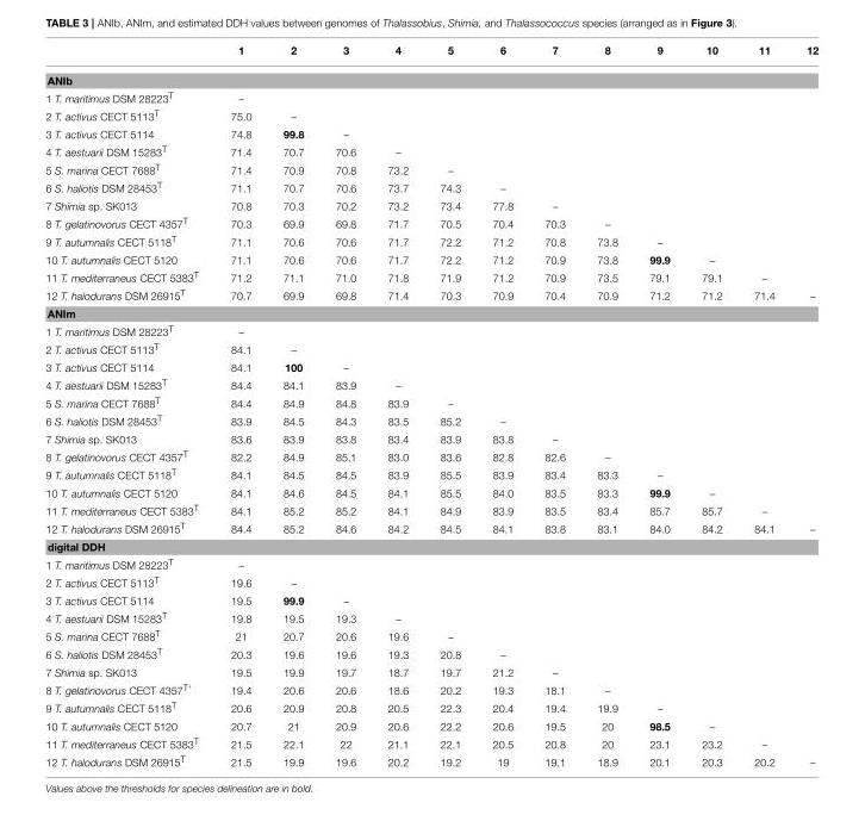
<table><thead><tr><td></td><td>1</td><td>2</td><td>3</td><td>4</td><td>5</td><td>6</td><td>7</td><td>8</td><td>9</td><td>10</td><td>11</td><td>12</td></tr></thead><tbody><tr><td colspan="13">ANIb</td></tr><tr><td>1 T. maritimus DSM 28223<sup>T</sup></td><td>–</td><td></td><td></td><td></td><td></td><td></td><td></td><td></td><td></td><td></td><td></td><td></td></tr><tr><td>2 T. activus CECT 5113<sup>T</sup></td><td>75.0</td><td>–</td><td></td><td></td><td></td><td></td><td></td><td></td><td></td><td></td><td></td><td></td></tr><tr><td>3 T. activus CECT 5114</td><td>74.8</td><td>99.8</td><td>–</td><td></td><td></td><td></td><td></td><td></td><td></td><td></td><td></td><td></td></tr><tr><td>4 T. aestuarii DSM 15283<sup>T</sup></td><td>71.4</td><td>70.7</td><td>70.6</td><td>–</td><td></td><td></td><td></td><td></td><td></td><td></td><td></td><td></td></tr><tr><td>5 S. marina CECT 7688<sup>T</sup></td><td>71.4</td><td>70.9</td><td>70.8</td><td>73.2</td><td>–</td><td></td><td></td><td></td><td></td><td></td><td></td><td></td></tr><tr><td>6 S. haliotis DSM 28453<sup>T</sup></td><td>71.1</td><td>70.7</td><td>70.6</td><td>73.7</td><td>74.3</td><td>–</td><td></td><td></td><td></td><td></td><td></td><td></td></tr><tr><td>7 Shimia sp. SK013</td><td>70.8</td><td>70.3</td><td>70.2</td><td>73.2</td><td>73.4</td><td>77.8</td><td>–</td><td></td><td></td><td></td><td></td><td></td></tr><tr><td>8 T. gelatinovorus CECT 4357<sup>T</sup></td><td>70.3</td><td>69.9</td><td>69.8</td><td>71.7</td><td>70.5</td><td>70.4</td><td>70.3</td><td>–</td><td></td><td></td><td></td><td></td></tr><tr><td>9 T. autumnalis CECT 5118<sup>T</sup></td><td>71.1</td><td>70.6</td><td>70.6</td><td>71.7</td><td>72.2</td><td>71.2</td><td>70.8</td><td>73.8</td><td>–</td><td></td><td></td><td></td></tr><tr><td>10 T. autumnalis CECT 5120</td><td>71.1</td><td>70.6</td><td>70.6</td><td>71.7</td><td>72.2</td><td>71.2</td><td>70.9</td><td>73.8</td><td>99.9</td><td>–</td><td></td><td></td></tr><tr><td>11 T. mediterraneus CECT 5383<sup>T</sup></td><td>71.2</td><td>71.1</td><td>71.0</td><td>71.8</td><td>71.9</td><td>71.2</td><td>70.9</td><td>73.5</td><td>79.1</td><td>79.1</td><td>–</td><td></td></tr><tr><td>12 T. halodurans DSM 26915<sup>T</sup></td><td>70.7</td><td>69.9</td><td>69.8</td><td>71.4</td><td>70.3</td><td>70.9</td><td>70.4</td><td>70.9</td><td>71.2</td><td>71.2</td><td>71.4</td><td>–</td></tr><tr><td colspan="13">ANIm</td></tr><tr><td>1 T. maritimus DSM 28223<sup>T</sup></td><td>–</td><td></td><td></td><td></td><td></td><td></td><td></td><td></td><td></td><td></td><td></td><td></td></tr><tr><td>2 T. activus CECT 5113<sup>T</sup></td><td>84.1</td><td>–</td><td></td><td></td><td></td><td></td><td></td><td></td><td></td><td></td><td></td><td></td></tr><tr><td>3 T. activus CECT 5114</td><td>84.1</td><td>100</td><td>–</td><td></td><td></td><td></td><td></td><td></td><td></td><td></td><td></td><td></td></tr><tr><td>4 T. aestuarii DSM 15283<sup>T</sup></td><td>84.4</td><td>84.1</td><td>83.9</td><td>–</td><td></td><td></td><td></td><td></td><td></td><td></td><td></td><td></td></tr><tr><td>5 S. marina CECT 7688<sup>T</sup></td><td>84.4</td><td>84.9</td><td>84.8</td><td>83.9</td><td>–</td><td></td><td></td><td></td><td></td><td></td><td></td><td></td></tr><tr><td>6 S. haliotis DSM 28453<sup>T</sup></td><td>83.9</td><td>84.5</td><td>84.3</td><td>83.5</td><td>85.2</td><td>–</td><td></td><td></td><td></td><td></td><td></td><td></td></tr><tr><td>7 Shimia sp. SK013</td><td>83.6</td><td>83.9</td><td>83.8</td><td>83.4</td><td>83.9</td><td>83.8</td><td>–</td><td></td><td></td><td></td><td></td><td></td></tr><tr><td>8 T. gelatinovorus CECT 4357<sup>T</sup></td><td>82.2</td><td>84.9</td><td>85.1</td><td>83.0</td><td>83.6</td><td>82.8</td><td>82.6</td><td>–</td><td></td><td></td><td></td><td></td></tr><tr><td>9 T. autumnalis CECT 5118<sup>T</sup></td><td>84.1</td><td>84.5</td><td>84.5</td><td>83.9</td><td>85.5</td><td>83.9</td><td>83.4</td><td>83.3</td><td>–</td><td></td><td></td><td></td></tr><tr><td>10 T. autumnalis CECT 5120</td><td>84.1</td><td>84.6</td><td>84.5</td><td>84.1</td><td>85.5</td><td>84.0</td><td>83.5</td><td>83.3</td><td>99.9</td><td>–</td><td></td><td></td></tr><tr><td>11 T. mediterraneus CECT 5383<sup>T</sup></td><td>84.1</td><td>85.2</td><td>85.2</td><td>84.1</td><td>84.9</td><td>83.9</td><td>83.5</td><td>83.4</td><td>85.7</td><td>85.7</td><td>–</td><td></td></tr><tr><td>12 T. halodurans DSM 26915<sup>T</sup></td><td>84.4</td><td>85.2</td><td>84.6</td><td>84.2</td><td>84.5</td><td>84.1</td><td>83.8</td><td>83.1</td><td>84.0</td><td>84.2</td><td>84.1</td><td>–</td></tr><tr><td colspan="13">digital DDH</td></tr><tr><td>1 T. maritimus DSM 28223<sup>T</sup></td><td>–</td><td></td><td></td><td></td><td></td><td></td><td></td><td></td><td></td><td></td><td></td><td></td></tr><tr><td>2 T. activus CECT 5113<sup>T</sup></td><td>19.6</td><td>–</td><td></td><td></td><td></td><td></td><td></td><td></td><td></td><td></td><td></td><td></td></tr><tr><td>3 T. activus CECT 5114</td><td>19.5</td><td>99.9</td><td>–</td><td></td><td></td><td></td><td></td><td></td><td></td><td></td><td></td><td></td></tr><tr><td>4 T. aestuarii DSM 15283<sup>T</sup></td><td>19.8</td><td>19.5</td><td>19.3</td><td>–</td><td></td><td></td><td></td><td></td><td></td><td></td><td></td><td></td></tr><tr><td>5 S. marina CECT 7688<sup>T</sup></td><td>21</td><td>20.7</td><td>20.6</td><td>19.6</td><td>–</td><td></td><td></td><td></td><td></td><td></td><td></td><td></td></tr><tr><td>6 S. haliotis DSM 28453<sup>T</sup></td><td>20.3</td><td>19.6</td><td>19.6</td><td>19.3</td><td>20.8</td><td>–</td><td></td><td></td><td></td><td></td><td></td><td></td></tr><tr><td>7 Shimia sp. SK013</td><td>19.5</td><td>19.9</td><td>19.7</td><td>18.7</td><td>19.7</td><td>21.2</td><td>–</td><td></td><td></td><td></td><td></td><td></td></tr><tr><td>8 T. gelatinovorus CECT 4357<sup>T‘</sup></td><td>19.4</td><td>20.6</td><td>20.6</td><td>18.6</td><td>20.2</td><td>19.3</td><td>18.1</td><td>–</td><td></td><td></td><td></td><td></td></tr><tr><td>9 T. autumnalis CECT 5118<sup>T</sup></td><td>20.6</td><td>20.9</td><td>20.8</td><td>20.5</td><td>22.3</td><td>20.4</td><td>19.4</td><td>19.9</td><td>–</td><td></td><td></td><td></td></tr><tr><td>10 T. autumnalis CECT 5120</td><td>20.7</td><td>21</td><td>20.9</td><td>20.6</td><td>22.2</td><td>20.6</td><td>19.5</td><td>20</td><td>98.5</td><td>–</td><td></td><td></td></tr><tr><td>11 T. mediterraneus CECT 5383<sup>T</sup></td><td>21.5</td><td>22.1</td><td>22</td><td>21.1</td><td>22.1</td><td>20.5</td><td>20.8</td><td>20</td><td>23.1</td><td>23.2</td><td>–</td><td></td></tr><tr><td>12 T. halodurans DSM 26915<sup>T</sup></td><td>21.5</td><td>19.9</td><td>19.6</td><td>20.2</td><td>19.2</td><td>19</td><td>19.1</td><td>18.9</td><td>20.1</td><td>20.3</td><td>20.2</td><td>–</td></tr></tbody></table>